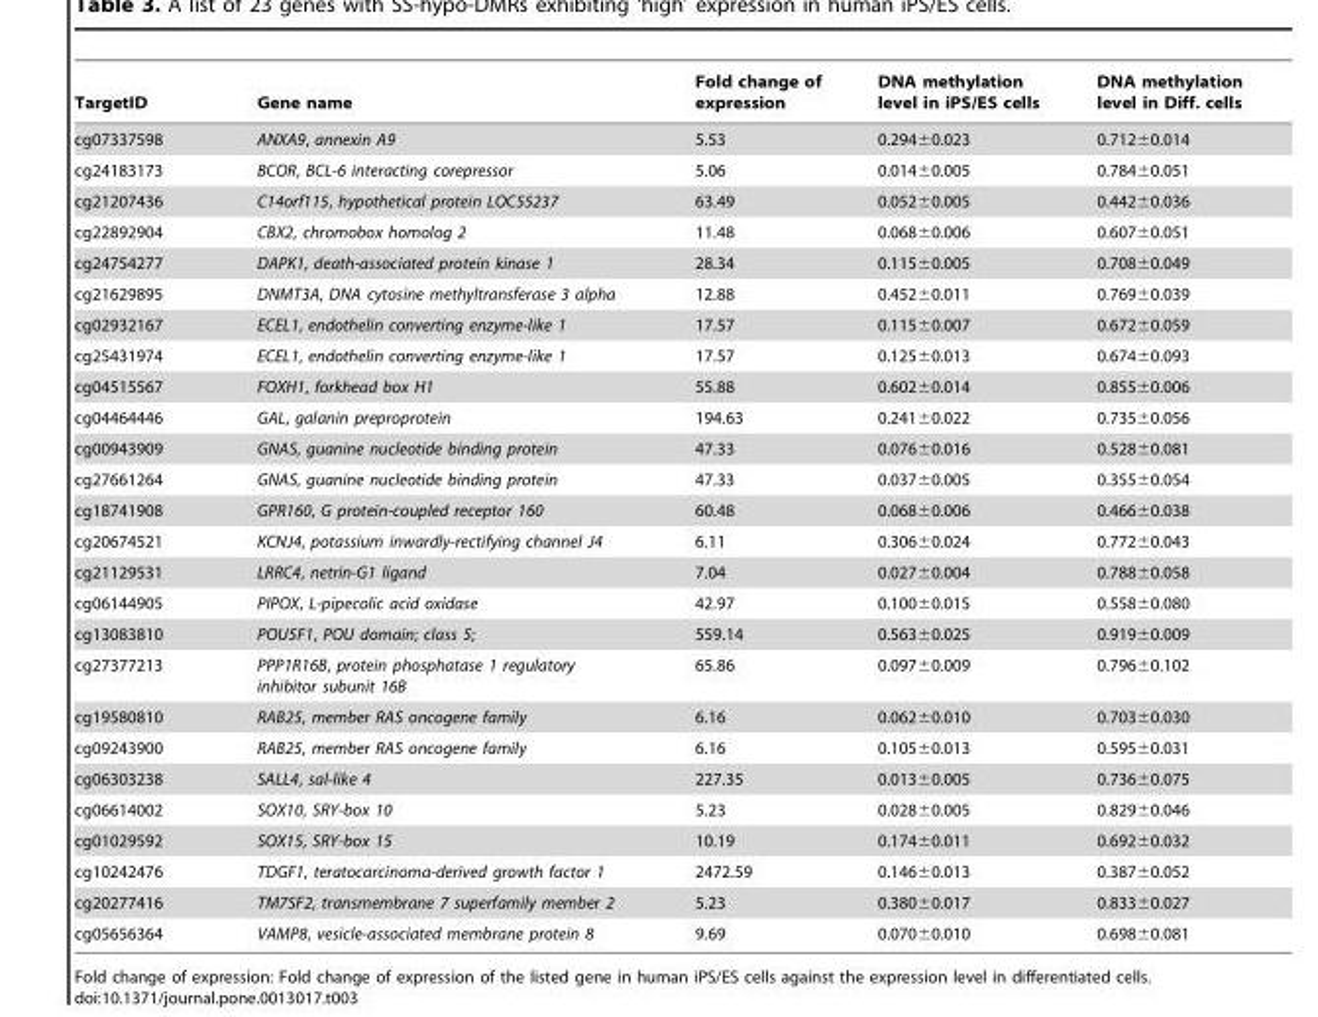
<table><thead><tr><td>TargetID</td><td>Gene name</td><td>Fold change of expression</td><td>DNA methylation level in iPS/ES cells</td><td>DNA methylation level in Diff. cells</td></tr></thead><tbody><tr><td>cg07337598</td><td>ANXA9, annexin A9</td><td>5.53</td><td>0.294±0.023</td><td>0.712±0.014</td></tr><tr><td>cg24183173</td><td>BCOR, BCL-6 interacting corepressor</td><td>5.06</td><td>0.014±0.005</td><td>0.784±0.051</td></tr><tr><td>cg21207436</td><td>C14orf115, hypothetical protein LOC55237</td><td>63.49</td><td>0.052±0.005</td><td>0.442±0.036</td></tr><tr><td>cg22892904</td><td>CBX2, chromobox homolog 2</td><td>11.48</td><td>0.068±0.006</td><td>0.607±0.051</td></tr><tr><td>cg24754277</td><td>DAPK1, death-associated protein kinase 1</td><td>28.34</td><td>0.115±0.005</td><td>0.708±0.049</td></tr><tr><td>cg21629895</td><td>DNMT3A, DNA cytosine methyltransferase 3 alpha</td><td>12.88</td><td>0.452±0.011</td><td>0.769±0.039</td></tr><tr><td>cg02932167</td><td>ECEL1, endothelin converting enzyme-like 1</td><td>17.57</td><td>0.115±0.007</td><td>0.672±0.059</td></tr><tr><td>cg25431974</td><td>ECEL1, endothelin converting enzyme-like 1</td><td>17.57</td><td>0.125±0.013</td><td>0.674±0.093</td></tr><tr><td>cg04515567</td><td>FOXH1, forkhead box H1</td><td>55.88</td><td>0.602±0.014</td><td>0.855±0.006</td></tr><tr><td>cg04464446</td><td>GAL, galanin preproprotein</td><td>194.63</td><td>0.241±0.022</td><td>0.735±0.056</td></tr><tr><td>cg00943909</td><td>GNAS, guanine nucleotide binding protein</td><td>47.33</td><td>0.076±0.016</td><td>0.528±0.081</td></tr><tr><td>cg27661264</td><td>GNAS, guanine nucleotide binding protein</td><td>47.33</td><td>0.037±0.005</td><td>0.355±0.054</td></tr><tr><td>cg18741908</td><td>GPR160, G protein-coupled receptor 160</td><td>60.48</td><td>0.068±0.006</td><td>0.466±0.038</td></tr><tr><td>cg20674521</td><td>KCNJ4, potassium inwardly-rectifying channel J4</td><td>6.11</td><td>0.306±0.024</td><td>0.772±0.043</td></tr><tr><td>cg21129531</td><td>LRRC4, netrin-G1 ligand</td><td>7.04</td><td>0.027±0.004</td><td>0.788±0.058</td></tr><tr><td>cg06144905</td><td>PIPOX, L-pipecolic acid oxidase</td><td>42.97</td><td>0.100±0.015</td><td>0.558±0.080</td></tr><tr><td>cg13083810</td><td>POU5F1, POU domain; class 5;</td><td>559.14</td><td>0.563±0.025</td><td>0.919±0.009</td></tr><tr><td>cg27377213</td><td>PPP1R16B, protein phosphatase 1 regulatory inhibitor subunit 16B</td><td>65.86</td><td>0.097±0.009</td><td>0.796±0.102</td></tr><tr><td>cg19580810</td><td>RAB25, member RAS oncogene family</td><td>6.16</td><td>0.062±0.010</td><td>0.703±0.030</td></tr><tr><td>cg09243900</td><td>RAB25, member RAS oncogene family</td><td>6.16</td><td>0.105±0.013</td><td>0.595±0.031</td></tr><tr><td>cg06303238</td><td>SALL4, sal-like 4</td><td>227.35</td><td>0.013±0.005</td><td>0.736±0.075</td></tr><tr><td>cg06614002</td><td>SOX10, SRY-box 10</td><td>5.23</td><td>0.028±0.005</td><td>0.829±0.046</td></tr><tr><td>cg01029592</td><td>SOX15, SRY-box 15</td><td>10.19</td><td>0.174±0.011</td><td>0.692±0.032</td></tr><tr><td>cg10242476</td><td>TDGF1, teratocarcinoma-derived growth factor 1</td><td>2472.59</td><td>0.146±0.013</td><td>0.387±0.052</td></tr><tr><td>cg20277416</td><td>TM7SF2, transmembrane 7 superfamily member 2</td><td>5.23</td><td>0.380±0.017</td><td>0.833±0.027</td></tr><tr><td>cg05656364</td><td>VAMP8, vesicle-associated membrane protein 8</td><td>9.69</td><td>0.070±0.010</td><td>0.698±0.081</td></tr></tbody></table>